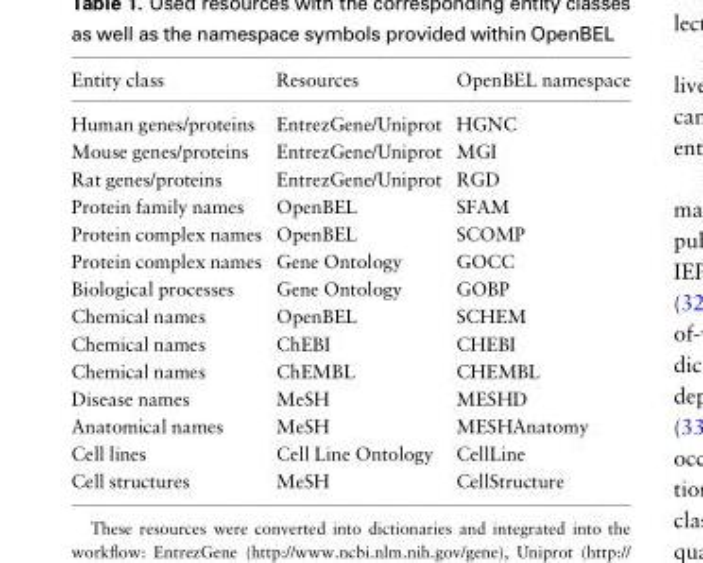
<table><thead><tr><td>Entity class</td><td>Resources</td><td>OpenBEL namespace</td></tr></thead><tbody><tr><td>Human genes/proteins</td><td>EntrezGene/Uniprot</td><td>HGNC</td></tr><tr><td>Mouse genes/proteins</td><td>EntrezGene/Uniprot</td><td>MGI</td></tr><tr><td>Rat genes/proteins</td><td>EntrezGene/Uniprot</td><td>RGD</td></tr><tr><td>Protein family names</td><td>OpenBEL</td><td>SFAM</td></tr><tr><td>Protein complex names</td><td>OpenBEL</td><td>SCOMP</td></tr><tr><td>Protein complex names</td><td>Gene Ontology</td><td>GOCC</td></tr><tr><td>Biological processes</td><td>Gene Ontology</td><td>GOBP</td></tr><tr><td>Chemical names</td><td>OpenBEL</td><td>SCHEM</td></tr><tr><td>Chemical names</td><td>ChEBI</td><td>CHEBI</td></tr><tr><td>Chemical names</td><td>ChEMBL</td><td>CHEMBL</td></tr><tr><td>Disease names</td><td>MeSH</td><td>MESHD</td></tr><tr><td>Anatomical names</td><td>MeSH</td><td>MESHAnatomy</td></tr><tr><td>Cell lines</td><td>Cell Line Ontology</td><td>CellLine</td></tr><tr><td>Cell structures</td><td>MeSH</td><td>CellStructure</td></tr></tbody></table>